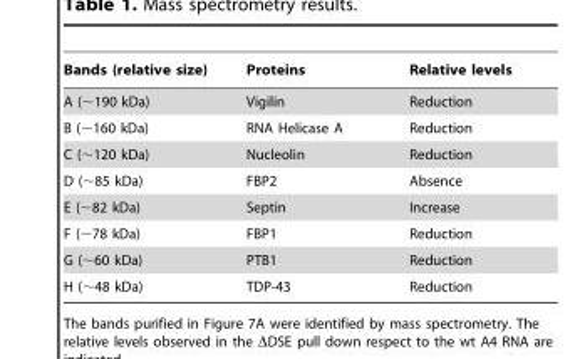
<table><thead><tr><td>Bands (relative size)</td><td>Proteins</td><td>Relative levels</td></tr></thead><tbody><tr><td>A (∼190 kDa)</td><td>Vigilin</td><td>Reduction</td></tr><tr><td>B (∼160 kDa)</td><td>RNA Helicase A</td><td>Reduction</td></tr><tr><td>C (∼120 kDa)</td><td>Nucleolin</td><td>Reduction</td></tr><tr><td>D (∼85 kDa)</td><td>FBP2</td><td>Absence</td></tr><tr><td>E (∼82 kDa)</td><td>Septin</td><td>Increase</td></tr><tr><td>F (∼78 kDa)</td><td>FBP1</td><td>Reduction</td></tr><tr><td>G (∼60 kDa)</td><td>PTB1</td><td>Reduction</td></tr><tr><td>H (∼48 kDa)</td><td>TDP-43</td><td>Reduction</td></tr></tbody></table>